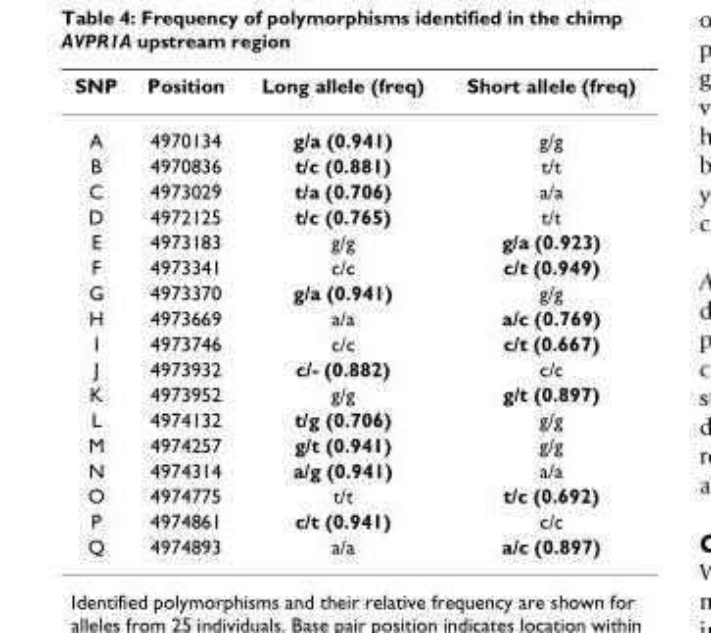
<table><thead><tr><td>SNP</td><td>Position</td><td>Long allele (freq)</td><td>Short allele (freq)</td></tr></thead><tbody><tr><td>A</td><td>4970134</td><td>g/a (0.941)</td><td>g/g</td></tr><tr><td>B</td><td>4970836</td><td>t/c (0.881)</td><td>t/t</td></tr><tr><td>C</td><td>4973029</td><td>t/a (0.706)</td><td>a/a</td></tr><tr><td>D</td><td>4972125</td><td>t/c (0.765)</td><td>t/t</td></tr><tr><td>E</td><td>4973183</td><td>g/g</td><td>g/a (0.923)</td></tr><tr><td>F</td><td>4973341</td><td>c/c</td><td>c/t (0.949)</td></tr><tr><td>G</td><td>4973370</td><td>g/a (0.941)</td><td>g/g</td></tr><tr><td>H</td><td>4973669</td><td>a/a</td><td>a/c (0.769)</td></tr><tr><td>I</td><td>4973746</td><td>c/c</td><td>c/t (0.667)</td></tr><tr><td>J</td><td>4973932</td><td>c/- (0.882)</td><td>c/c</td></tr><tr><td>K</td><td>4973952</td><td>g/g</td><td>g/t (0.897)</td></tr><tr><td>L</td><td>4974132</td><td>t/g (0.706)</td><td>g/g</td></tr><tr><td>M</td><td>4974257</td><td>g/t (0.941)</td><td>g/g</td></tr><tr><td>N</td><td>4974314</td><td>a/g (0.941)</td><td>a/a</td></tr><tr><td>O</td><td>4974775</td><td>t/t</td><td>t/c (0.692)</td></tr><tr><td>P</td><td>4974861</td><td>c/t (0.941)</td><td>c/c</td></tr><tr><td>Q</td><td>4974893</td><td>a/a</td><td>a/c (0.897)</td></tr></tbody></table>